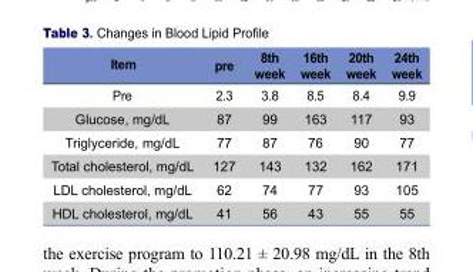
<table><thead><tr><td>Item</td><td>pre</td><td>8th week</td><td>16th week</td><td>20th week</td><td>24th week</td></tr></thead><tbody><tr><td>Pre</td><td>2.3</td><td>3.8</td><td>8.5</td><td>8.4</td><td>9.9</td></tr><tr><td>Glucose, mg/dL</td><td>87</td><td>99</td><td>163</td><td>117</td><td>93</td></tr><tr><td>Triglyceride, mg/dL</td><td>77</td><td>87</td><td>76</td><td>90</td><td>77</td></tr><tr><td>Total cholesterol, mg/dL</td><td>127</td><td>143</td><td>132</td><td>162</td><td>171</td></tr><tr><td>LDL cholesterol, mg/dL</td><td>62</td><td>74</td><td>77</td><td>93</td><td>105</td></tr><tr><td>HDL cholesterol, mg/dL</td><td>41</td><td>56</td><td>43</td><td>55</td><td>55</td></tr></tbody></table>